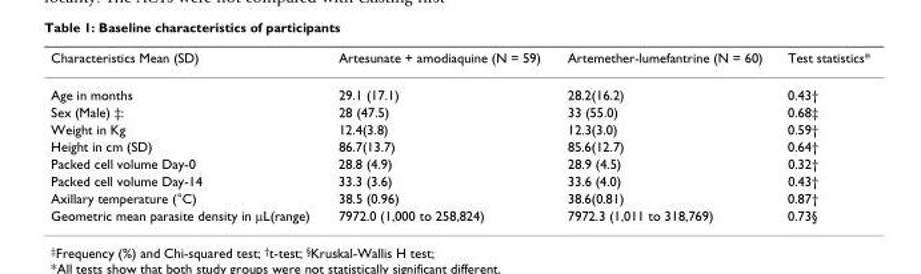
<table><thead><tr><td>Characteristics Mean (SD)</td><td>Artesunate + amodiaquine (N = 59)</td><td>Artemether-lumefantrine (N = 60)</td><td>Test statistics*</td></tr></thead><tbody><tr><td>Age in months</td><td>29.1 (17.1)</td><td>28.2(16.2)</td><td>0.43†</td></tr><tr><td>Sex (Male) ‡:</td><td>28 (47.5)</td><td>33 (55.0)</td><td>0.68‡</td></tr><tr><td>Weight in Kg</td><td>12.4(3.8)</td><td>12.3(3.0)</td><td>0.59†</td></tr><tr><td>Height in cm (SD)</td><td>86.7(13.7)</td><td>85.6(12.7)</td><td>0.64†</td></tr><tr><td>Packed cell volume Day-0</td><td>28.8 (4.9)</td><td>28.9 (4.5)</td><td>0.32†</td></tr><tr><td>Packed cell volume Day-14</td><td>33.3 (3.6)</td><td>33.6 (4.0)</td><td>0.43†</td></tr><tr><td>Axillary temperature (°C)</td><td>38.5 (0.96)</td><td>38.6(0.81)</td><td>0.87†</td></tr><tr><td>Geometric mean parasite density in µL(range)</td><td>7972.0 (1,000 to 258,824)</td><td>7972.3 (1,011 to 318,769)</td><td>0.73§</td></tr></tbody></table>